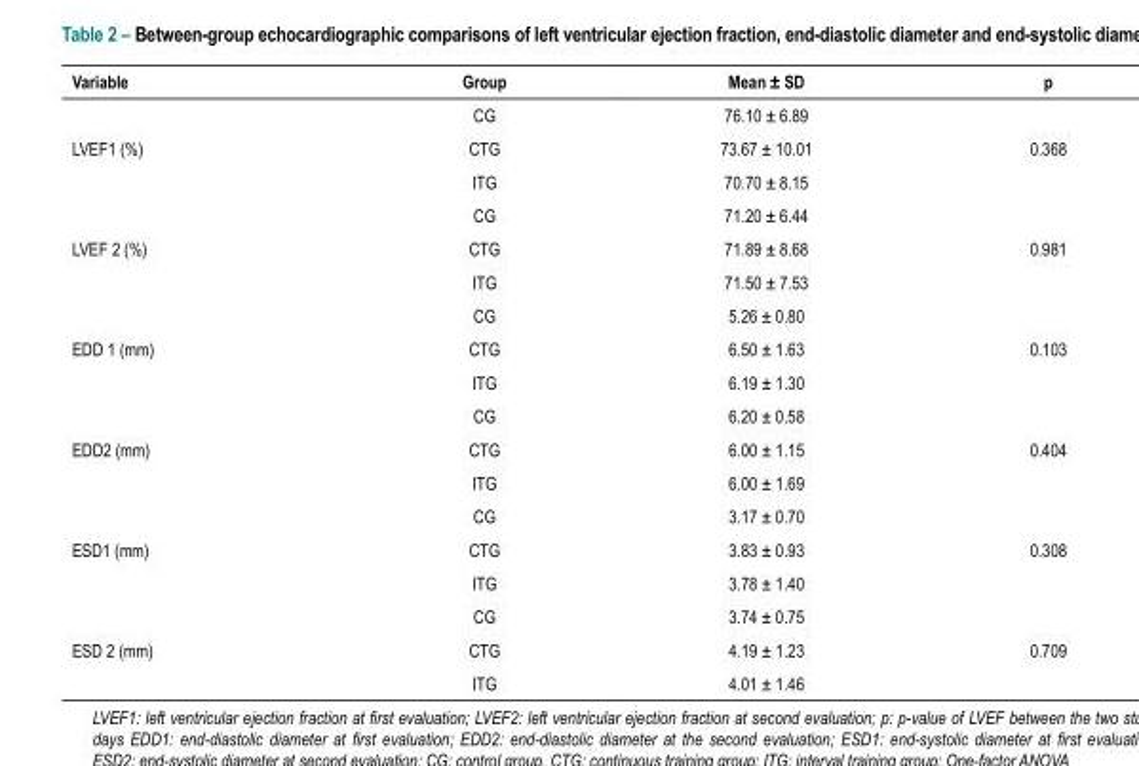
<table><thead><tr><td>Variable</td><td>Group</td><td>Mean ± SD</td><td>p</td></tr></thead><tbody><tr><td rowspan="3">LVEF1 (%)</td><td>CG</td><td>76.10 ± 6.89</td><td rowspan="3">0.368</td></tr><tr><td>CTG</td><td>73.67 ± 10.01</td></tr><tr><td>ITG</td><td>70.70 ± 8.15</td></tr><tr><td rowspan="3">LVEF 2 (%)</td><td>CG</td><td>71.20 ± 6.44</td><td rowspan="3">0.981</td></tr><tr><td>CTG</td><td>71.89 ± 8.68</td></tr><tr><td>ITG</td><td>71.50 ± 7.53</td></tr><tr><td rowspan="3">EDD 1 (mm)</td><td>CG</td><td>5.26 ± 0.80</td><td rowspan="3">0.103</td></tr><tr><td>CTG</td><td>6.50 ± 1.63</td></tr><tr><td>ITG</td><td>6.19 ± 1.30</td></tr><tr><td rowspan="3">EDD2 (mm)</td><td>CG</td><td>6.20 ± 0.58</td><td rowspan="3">0.404</td></tr><tr><td>CTG</td><td>6.00 ± 1.15</td></tr><tr><td>ITG</td><td>6.00 ± 1.69</td></tr><tr><td rowspan="3">ESD1 (mm)</td><td>CG</td><td>3.17 ± 0.70</td><td rowspan="3">0.308</td></tr><tr><td>CTG</td><td>3.83 ± 0.93</td></tr><tr><td>ITG</td><td>3.78 ± 1.40</td></tr><tr><td rowspan="3">ESD 2 (mm)</td><td>CG</td><td>3.74 ± 0.75</td><td rowspan="3">0.709</td></tr><tr><td>CTG</td><td>4.19 ± 1.23</td></tr><tr><td>ITG</td><td>4.01 ± 1.46</td></tr></tbody></table>